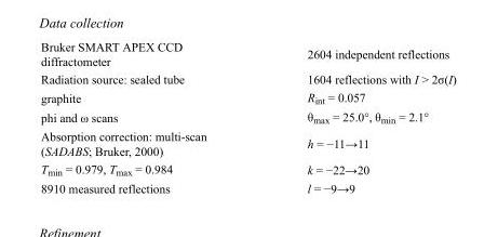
<table><tbody><tr><td>Bruker SMART APEX CCD diffractometer</td><td>2604 independent reflections</td></tr><tr><td>Radiation source: sealed tube</td><td>1604 reflections with I &gt; 2σ(I)</td></tr><tr><td>graphite</td><td>R<sub>int</sub> = 0.057</td></tr><tr><td>phi and ω scans</td><td>θ<sub>max</sub> = 25.0°, θ<sub>min</sub> = 2.1°</td></tr><tr><td>Absorption correction: multi-scan (SADABS; Bruker, 2000)</td><td>h = −11→11</td></tr><tr><td>T<sub>min</sub> = 0.979, T<sub>max</sub> = 0.984</td><td>k = −22→20</td></tr><tr><td>8910 measured reflections</td><td>l = −9→9</td></tr></tbody></table>